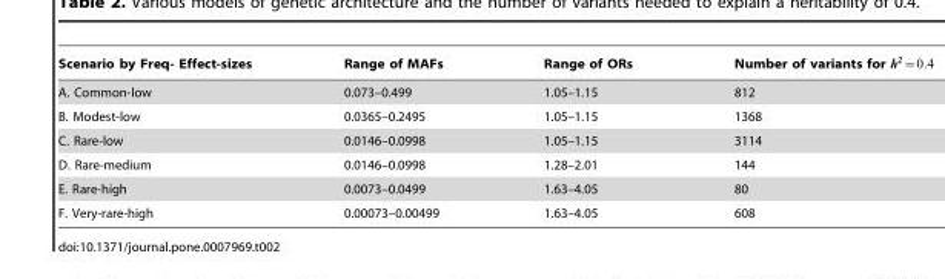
<table><thead><tr><td>Scenario by Freq- Effect-sizes</td><td>Range of MAFs</td><td>Range of ORs</td><td>Number of variants for</td></tr></thead><tbody><tr><td>A. Common-low</td><td>0.073–0.499</td><td>1.05–1.15</td><td>812</td></tr><tr><td>B. Modest-low</td><td>0.0365–0.2495</td><td>1.05–1.15</td><td>1368</td></tr><tr><td>C. Rare-low</td><td>0.0146–0.0998</td><td>1.05–1.15</td><td>3114</td></tr><tr><td>D. Rare-medium</td><td>0.0146–0.0998</td><td>1.28–2.01</td><td>144</td></tr><tr><td>E. Rare-high</td><td>0.0073–0.0499</td><td>1.63–4.05</td><td>80</td></tr><tr><td>F. Very-rare-high</td><td>0.00073–0.00499</td><td>1.63–4.05</td><td>608</td></tr></tbody></table>